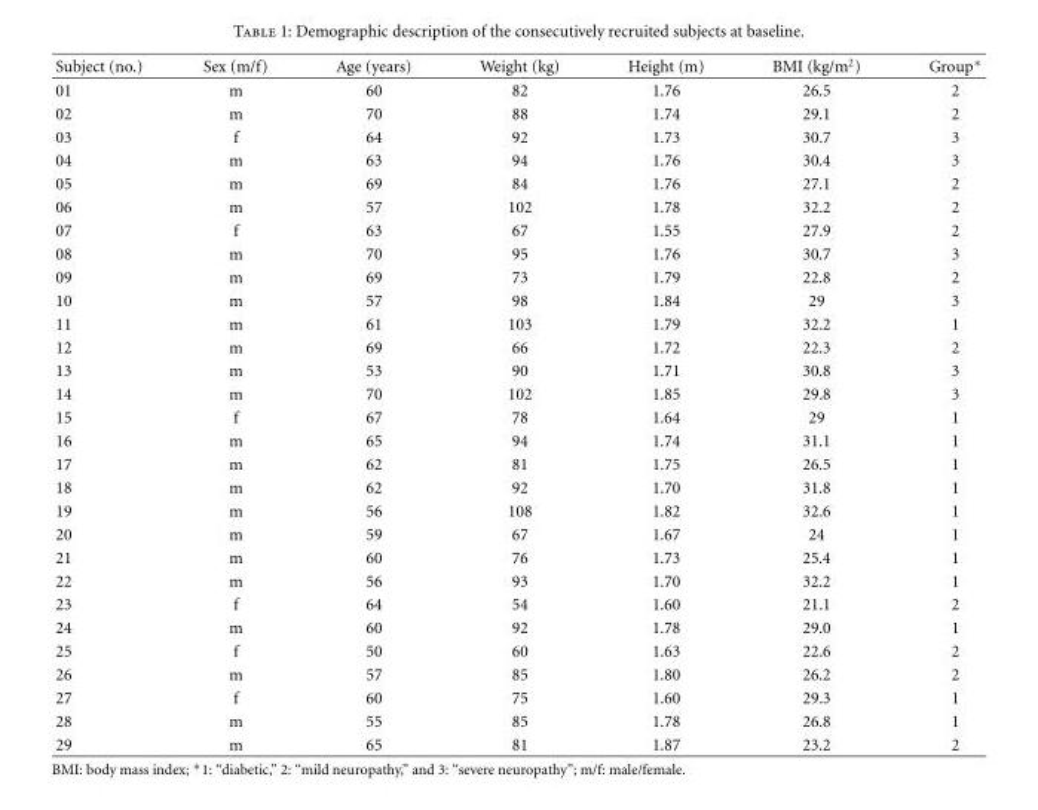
<table><thead><tr><td>Subject (no.)</td><td>Sex (m/f)</td><td>Age (years)</td><td>Weight (kg)</td><td>Height (m)</td><td>BMI (kg/m<sup>2</sup>)</td><td>Group∗</td></tr></thead><tbody><tr><td>01</td><td>m</td><td>60</td><td>82</td><td>1.76</td><td>26.5</td><td>2</td></tr><tr><td>02</td><td>m</td><td>70</td><td>88</td><td>1.74</td><td>29.1</td><td>2</td></tr><tr><td>03</td><td>f</td><td>64</td><td>92</td><td>1.73</td><td>30.7</td><td>3</td></tr><tr><td>04</td><td>m</td><td>63</td><td>94</td><td>1.76</td><td>30.4</td><td>3</td></tr><tr><td>05</td><td>m</td><td>69</td><td>84</td><td>1.76</td><td>27.1</td><td>2</td></tr><tr><td>06</td><td>m</td><td>57</td><td>102</td><td>1.78</td><td>32.2</td><td>2</td></tr><tr><td>07</td><td>f</td><td>63</td><td>67</td><td>1.55</td><td>27.9</td><td>2</td></tr><tr><td>08</td><td>m</td><td>70</td><td>95</td><td>1.76</td><td>30.7</td><td>3</td></tr><tr><td>09</td><td>m</td><td>69</td><td>73</td><td>1.79</td><td>22.8</td><td>2</td></tr><tr><td>10</td><td>m</td><td>57</td><td>98</td><td>1.84</td><td>29</td><td>3</td></tr><tr><td>11</td><td>m</td><td>61</td><td>103</td><td>1.79</td><td>32.2</td><td>1</td></tr><tr><td>12</td><td>m</td><td>69</td><td>66</td><td>1.72</td><td>22.3</td><td>2</td></tr><tr><td>13</td><td>m</td><td>53</td><td>90</td><td>1.71</td><td>30.8</td><td>3</td></tr><tr><td>14</td><td>m</td><td>70</td><td>102</td><td>1.85</td><td>29.8</td><td>3</td></tr><tr><td>15</td><td>f</td><td>67</td><td>78</td><td>1.64</td><td>29</td><td>1</td></tr><tr><td>16</td><td>m</td><td>65</td><td>94</td><td>1.74</td><td>31.1</td><td>1</td></tr><tr><td>17</td><td>m</td><td>62</td><td>81</td><td>1.75</td><td>26.5</td><td>1</td></tr><tr><td>18</td><td>m</td><td>62</td><td>92</td><td>1.70</td><td>31.8</td><td>1</td></tr><tr><td>19</td><td>m</td><td>56</td><td>108</td><td>1.82</td><td>32.6</td><td>1</td></tr><tr><td>20</td><td>m</td><td>59</td><td>67</td><td>1.67</td><td>24</td><td>1</td></tr><tr><td>21</td><td>m</td><td>60</td><td>76</td><td>1.73</td><td>25.4</td><td>1</td></tr><tr><td>22</td><td>m</td><td>56</td><td>93</td><td>1.70</td><td>32.2</td><td>1</td></tr><tr><td>23</td><td>f</td><td>64</td><td>54</td><td>1.60</td><td>21.1</td><td>2</td></tr><tr><td>24</td><td>m</td><td>60</td><td>92</td><td>1.78</td><td>29.0</td><td>1</td></tr><tr><td>25</td><td>f</td><td>50</td><td>60</td><td>1.63</td><td>22.6</td><td>2</td></tr><tr><td>26</td><td>m</td><td>57</td><td>85</td><td>1.80</td><td>26.2</td><td>2</td></tr><tr><td>27</td><td>f</td><td>60</td><td>75</td><td>1.60</td><td>29.3</td><td>1</td></tr><tr><td>28</td><td>m</td><td>55</td><td>85</td><td>1.78</td><td>26.8</td><td>1</td></tr><tr><td>29</td><td>m</td><td>65</td><td>81</td><td>1.87</td><td>23.2</td><td>2</td></tr></tbody></table>